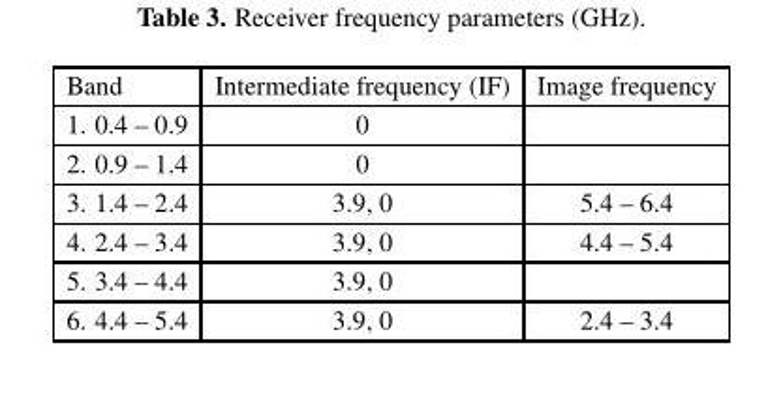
<table><thead><tr><td>Band</td><td>Intermediate frequency (IF)</td><td>Image frequency</td></tr></thead><tbody><tr><td>1. 0.4 – 0.9</td><td>0</td><td></td></tr><tr><td>2. 0.9 – 1.4</td><td>0</td><td></td></tr><tr><td>3. 1.4 – 2.4</td><td>3.9, 0</td><td>5.4 – 6.4</td></tr><tr><td>4. 2.4 – 3.4</td><td>3.9, 0</td><td>4.4 – 5.4</td></tr><tr><td>5. 3.4 – 4.4</td><td>3.9, 0</td><td></td></tr><tr><td>6. 4.4 – 5.4</td><td>3.9, 0</td><td>2.4 – 3.4</td></tr></tbody></table>